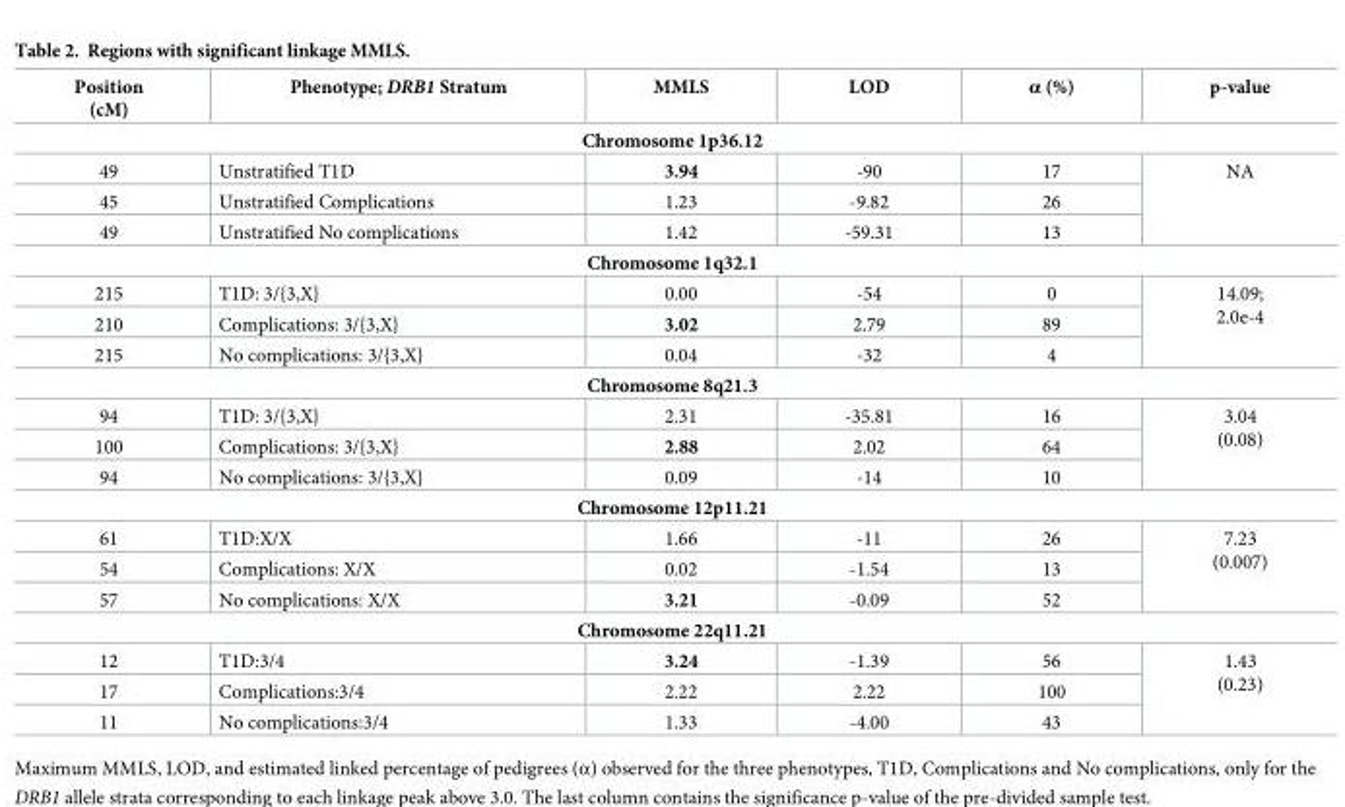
<table><thead><tr><td>Position (cM)</td><td>Phenotype; DRB1 Stratum</td><td>MMLS</td><td>LOD</td><td>α (%)</td><td>p-value</td></tr></thead><tbody><tr><td colspan="6">Chromosome 1p36.12</td></tr><tr><td>49</td><td>Unstratified T1D</td><td>3.94</td><td>-90</td><td>17</td><td rowspan="3">NA</td></tr><tr><td>45</td><td>Unstratified Complications</td><td>1.23</td><td>-9.82</td><td>26</td></tr><tr><td>49</td><td>Unstratified No complications</td><td>1.42</td><td>-59.31</td><td>13</td></tr><tr><td colspan="6">Chromosome 1q32.1</td></tr><tr><td>215</td><td>T1D: 3/{3,X}</td><td>0.00</td><td>-54</td><td>0</td><td rowspan="3">14.09; 2.0e-4</td></tr><tr><td>210</td><td>Complications: 3/{3,X}</td><td>3.02</td><td>2.79</td><td>89</td></tr><tr><td>215</td><td>No complications: 3/{3,X}</td><td>0.04</td><td>-32</td><td>4</td></tr><tr><td colspan="6">Chromosome 8q21.3</td></tr><tr><td>94</td><td>T1D: 3/{3,X}</td><td>2.31</td><td>-35.81</td><td>16</td><td rowspan="3">3.04 (0.08)</td></tr><tr><td>100</td><td>Complications: 3/{3,X}</td><td>2.88</td><td>2.02</td><td>64</td></tr><tr><td>94</td><td>No complications: 3/{3,X}</td><td>0.09</td><td>-14</td><td>10</td></tr><tr><td colspan="6">Chromosome 12p11.21</td></tr><tr><td>61</td><td>T1D:X/X</td><td>1.66</td><td>-11</td><td>26</td><td rowspan="3">7.23 (0.007)</td></tr><tr><td>54</td><td>Complications: X/X</td><td>0.02</td><td>-1.54</td><td>13</td></tr><tr><td>57</td><td>No complications: X/X</td><td>3.21</td><td>-0.09</td><td>52</td></tr><tr><td colspan="6">Chromosome 22q11.21</td></tr><tr><td>12</td><td>T1D:3/4</td><td>3.24</td><td>-1.39</td><td>56</td><td rowspan="3">1.43 (0.23)</td></tr><tr><td>17</td><td>Complications:3/4</td><td>2.22</td><td>2.22</td><td>100</td></tr><tr><td>11</td><td>No complications:3/4</td><td>1.33</td><td>-4.00</td><td>43</td></tr></tbody></table>